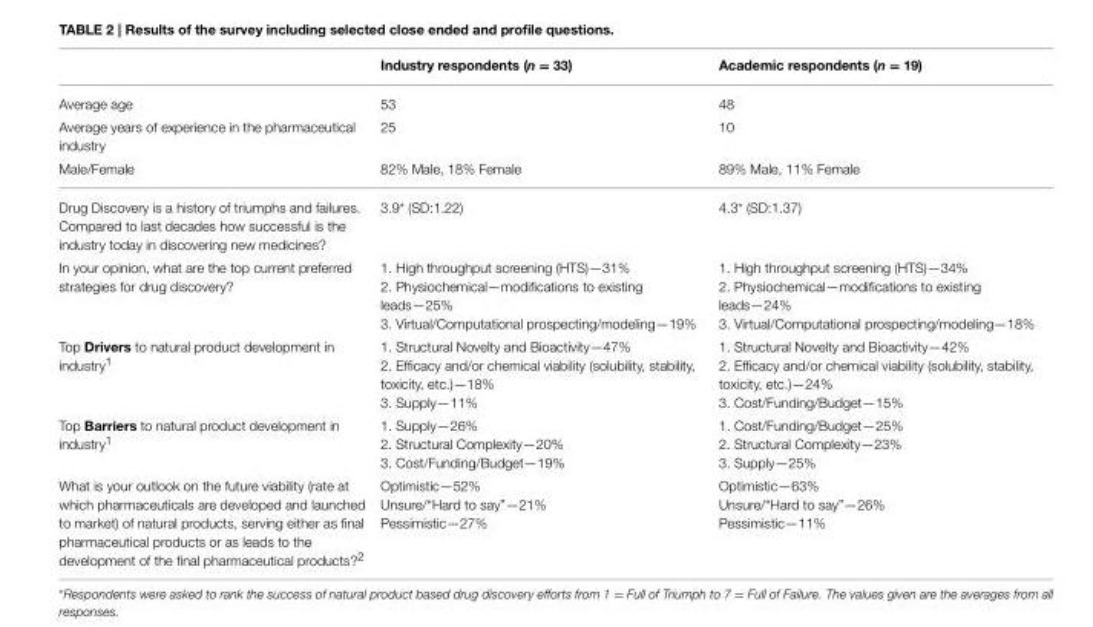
<table><thead><tr><td></td><td>Industry respondents (n = 33)</td><td>Academic respondents (n = 19)</td></tr></thead><tbody><tr><td>Average age</td><td>53</td><td>48</td></tr><tr><td>Average years of experience in the pharmaceutical industry</td><td>25</td><td>10</td></tr><tr><td>Male/Female</td><td>82% Male, 18% Female</td><td>89% Male, 11% Female</td></tr><tr><td>Drug Discovery is a history of triumphs and failures. Compared to last decades how successful is the industry today in discovering new medicines?</td><td>3.9* (SD:1.22)</td><td>4.3* (SD:1.37)</td></tr><tr><td>In your opinion, what are the top current preferred strategies for drug discovery?</td><td>1. High throughput screening (HTS)—31% 2. Physiochemical—modifications to existing leads—25% 3. Virtual/Computational prospecting/modeling—19%</td><td>1. High throughput screening (HTS)—34% 2. Physiochemical—modifications to existing leads—24% 3. Virtual/Computational prospecting/modeling—18%</td></tr><tr><td>Top Drivers to natural product development in industry<sup>1</sup></td><td>1. Structural Novelty and Bioactivity—47% 2. Efficacy and/or chemical viability (solubility, stability, toxicity, etc.)—18% 3. Supply—11%</td><td>1. Structural Novelty and Bioactivity—42% 2. Efficacy and/or chemical viability (solubility, stability, toxicity, etc.)—24% 3. Cost/Funding/Budget—15%</td></tr><tr><td>Top Barriers to natural product development in industry<sup>1</sup></td><td>1. Supply—26% 2. Structural Complexity—20% 3. Cost/Funding/Budget—19%</td><td>1. Cost/Funding/Budget—25% 2. Structural Complexity—23% 3. Supply—25%</td></tr><tr><td>What is your outlook on the future viability (rate at which pharmaceuticals are developed and launched to market) of natural products, serving either as final pharmaceutical products or as leads to the development of the final pharmaceutical products?<sup>2</sup></td><td>Optimistic—52% Unsure/“Hard to say”—21% Pessimistic—27%</td><td>Optimistic—63% Unsure/“Hard to say”—26% Pessimistic—11%</td></tr></tbody></table>